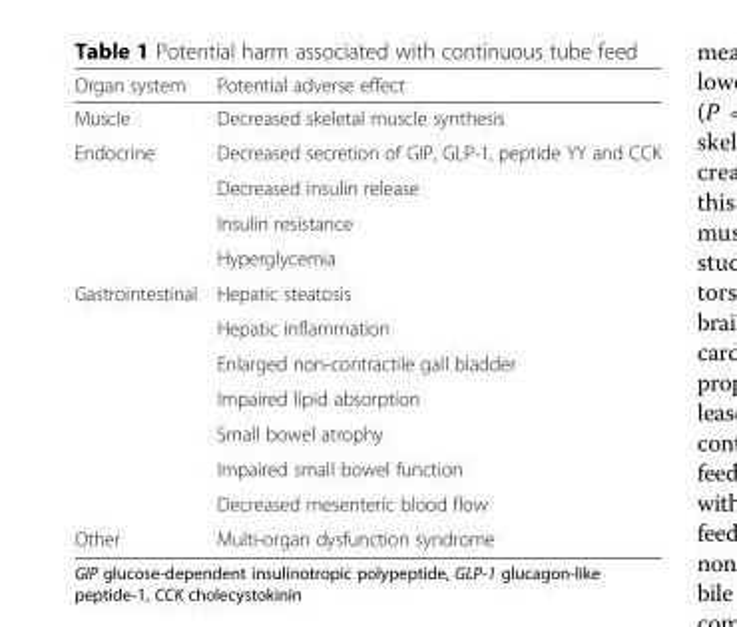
<table><thead><tr><td>Organ system</td><td>Potential adverse effect</td></tr></thead><tbody><tr><td>Muscle</td><td>Decreased skeletal muscle synthesis</td></tr><tr><td rowspan="4">Endocrine</td><td>Decreased secretion of GIP, GLP-1, peptide YY and CCK</td></tr><tr><td>Decreased insulin release</td></tr><tr><td>Insulin resistance</td></tr><tr><td>Hyperglycemia</td></tr><tr><td rowspan="7">Gastrointestinal</td><td>Hepatic steatosis</td></tr><tr><td>Hepatic inflammation</td></tr><tr><td>Enlarged non-contractile gall bladder</td></tr><tr><td>Impaired lipid absorption</td></tr><tr><td>Small bowel atrophy</td></tr><tr><td>Impaired small bowel function</td></tr><tr><td>Decreased mesenteric blood flow</td></tr><tr><td>Other</td><td>Multi-organ dysfunction syndrome</td></tr></tbody></table>